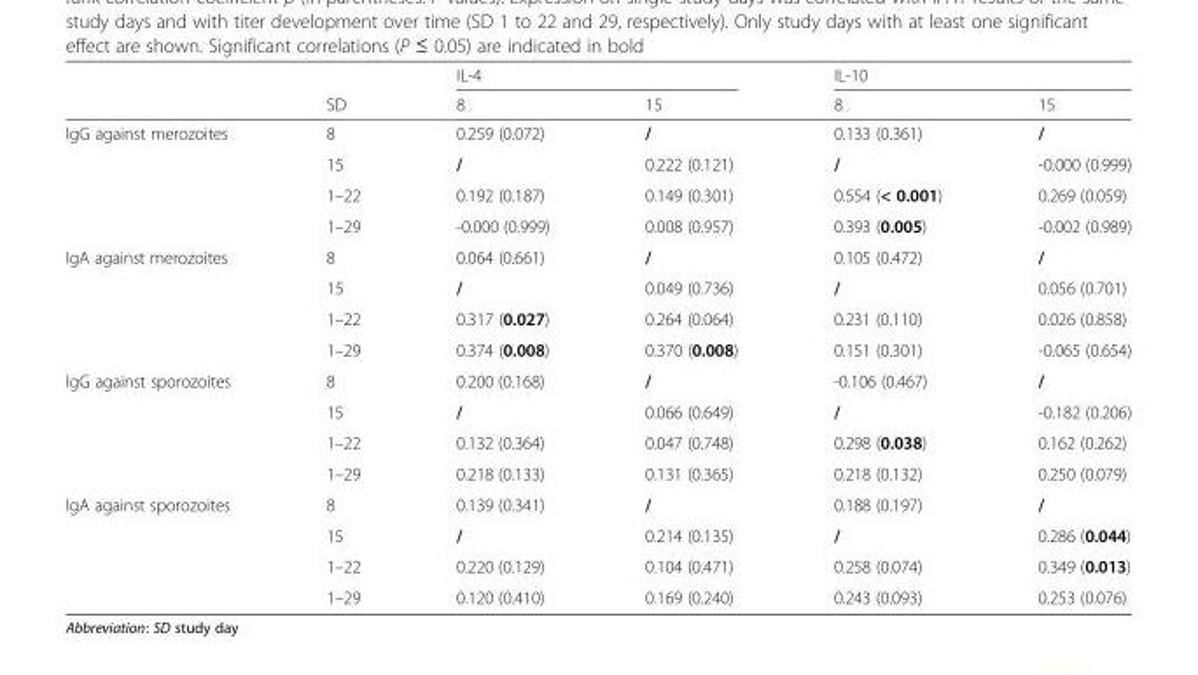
<table><thead><tr><td rowspan="2"></td><td rowspan="2">SD</td><td colspan="2">IL-4</td><td colspan="2">IL-10</td></tr><tr><td>8</td><td>15</td><td>8</td><td>15</td></tr></thead><tbody><tr><td rowspan="4">IgG against merozoites</td><td>8</td><td>0.259 (0.072)</td><td>/</td><td>0.133 (0.361)</td><td>/</td></tr><tr><td>15</td><td>/</td><td>0.222 (0.121)</td><td>/</td><td>-0.000 (0.999)</td></tr><tr><td>1–22</td><td>0.192 (0.187)</td><td>0.149 (0.301)</td><td>0.554 (&lt; 0.001)</td><td>0.269 (0.059)</td></tr><tr><td>1–29</td><td>-0.000 (0.999)</td><td>0.008 (0.957)</td><td>0.393 (0.005)</td><td>-0.002 (0.989)</td></tr><tr><td rowspan="4">IgA against merozoites</td><td>8</td><td>0.064 (0.661)</td><td>/</td><td>0.105 (0.472)</td><td>/</td></tr><tr><td>15</td><td>/</td><td>0.049 (0.736)</td><td>/</td><td>0.056 (0.701)</td></tr><tr><td>1–22</td><td>0.317 (0.027)</td><td>0.264 (0.064)</td><td>0.231 (0.110)</td><td>0.026 (0.858)</td></tr><tr><td>1–29</td><td>0.374 (0.008)</td><td>0.370 (0.008)</td><td>0.151 (0.301)</td><td>-0.065 (0.654)</td></tr><tr><td rowspan="4">IgG against sporozoites</td><td>8</td><td>0.200 (0.168)</td><td>/</td><td>-0.106 (0.467)</td><td>/</td></tr><tr><td>15</td><td>/</td><td>0.066 (0.649)</td><td>/</td><td>-0.182 (0.206)</td></tr><tr><td>1–22</td><td>0.132 (0.364)</td><td>0.047 (0.748)</td><td>0.298 (0.038)</td><td>0.162 (0.262)</td></tr><tr><td>1–29</td><td>0.218 (0.133)</td><td>0.131 (0.365)</td><td>0.218 (0.132)</td><td>0.250 (0.079)</td></tr><tr><td rowspan="4">IgA against sporozoites</td><td>8</td><td>0.139 (0.341)</td><td>/</td><td>0.188 (0.197)</td><td>/</td></tr><tr><td>15</td><td>/</td><td>0.214 (0.135)</td><td>/</td><td>0.286 (0.044)</td></tr><tr><td>1–22</td><td>0.220 (0.129)</td><td>0.104 (0.471)</td><td>0.258 (0.074)</td><td>0.349 (0.013)</td></tr><tr><td>1–29</td><td>0.120 (0.410)</td><td>0.169 (0.240)</td><td>0.243 (0.093)</td><td>0.253 (0.076)</td></tr></tbody></table>